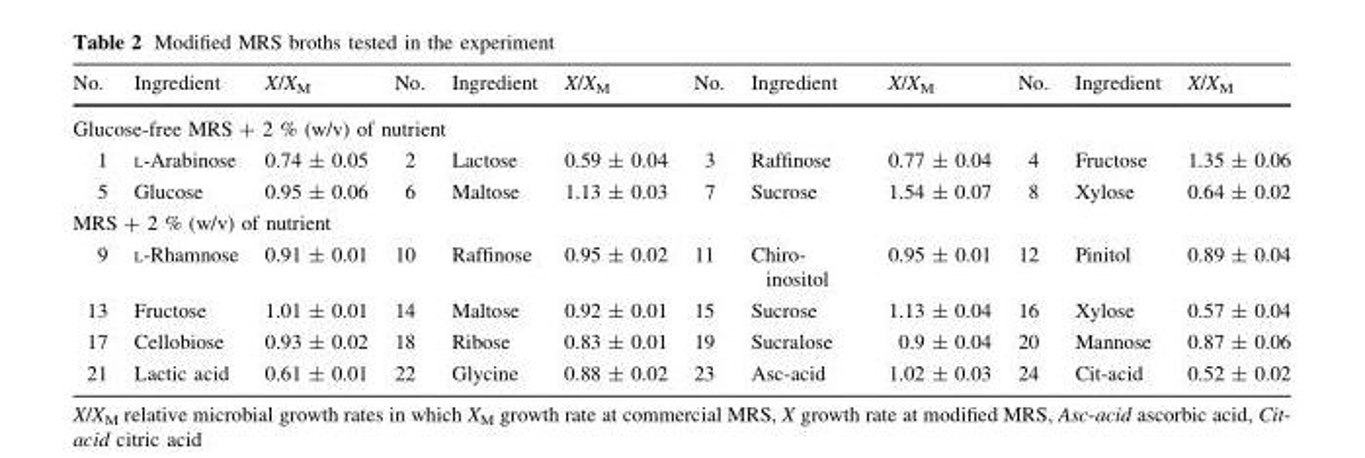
<table><thead><tr><td>No.</td><td>Ingredient</td><td>X/X<sub>M</sub></td><td>No.</td><td>Ingredient</td><td>X/X<sub>M</sub></td><td>No.</td><td>Ingredient</td><td>X/X<sub>M</sub></td><td>No.</td><td>Ingredient</td><td>X/X<sub>M</sub></td></tr></thead><tbody><tr><td colspan="12">Glucose-free MRS + 2 % (w/v) of nutrient</td></tr><tr><td>1</td><td>L-Arabinose</td><td>0.74 ± 0.05</td><td>2</td><td>Lactose</td><td>0.59 ± 0.04</td><td>3</td><td>Raffinose</td><td>0.77 ± 0.04</td><td>4</td><td>Fructose</td><td>1.35 ± 0.06</td></tr><tr><td>5</td><td>Glucose</td><td>0.95 ± 0.06</td><td>6</td><td>Maltose</td><td>1.13 ± 0.03</td><td>7</td><td>Sucrose</td><td>1.54 ± 0.07</td><td>8</td><td>Xylose</td><td>0.64 ± 0.02</td></tr><tr><td colspan="12">MRS + 2 % (w/v) of nutrient</td></tr><tr><td>9</td><td>L-Rhamnose</td><td>0.91 ± 0.01</td><td>10</td><td>Raffinose</td><td>0.95 ± 0.02</td><td>11</td><td>Chiro- inositol</td><td>0.95 ± 0.01</td><td>12</td><td>Pinitol</td><td>0.89 ± 0.04</td></tr><tr><td>13</td><td>Fructose</td><td>1.01 ± 0.01</td><td>14</td><td>Maltose</td><td>0.92 ± 0.01</td><td>15</td><td>Sucrose</td><td>1.13 ± 0.04</td><td>16</td><td>Xylose</td><td>0.57 ± 0.04</td></tr><tr><td>17</td><td>Cellobiose</td><td>0.93 ± 0.02</td><td>18</td><td>Ribose</td><td>0.83 ± 0.01</td><td>19</td><td>Sucralose</td><td>0.9 ± 0.04</td><td>20</td><td>Mannose</td><td>0.87 ± 0.06</td></tr><tr><td>21</td><td>Lactic acid</td><td>0.61 ± 0.01</td><td>22</td><td>Glycine</td><td>0.88 ± 0.02</td><td>23</td><td>Asc-acid</td><td>1.02 ± 0.03</td><td>24</td><td>Cit-acid</td><td>0.52 ± 0.02</td></tr></tbody></table>